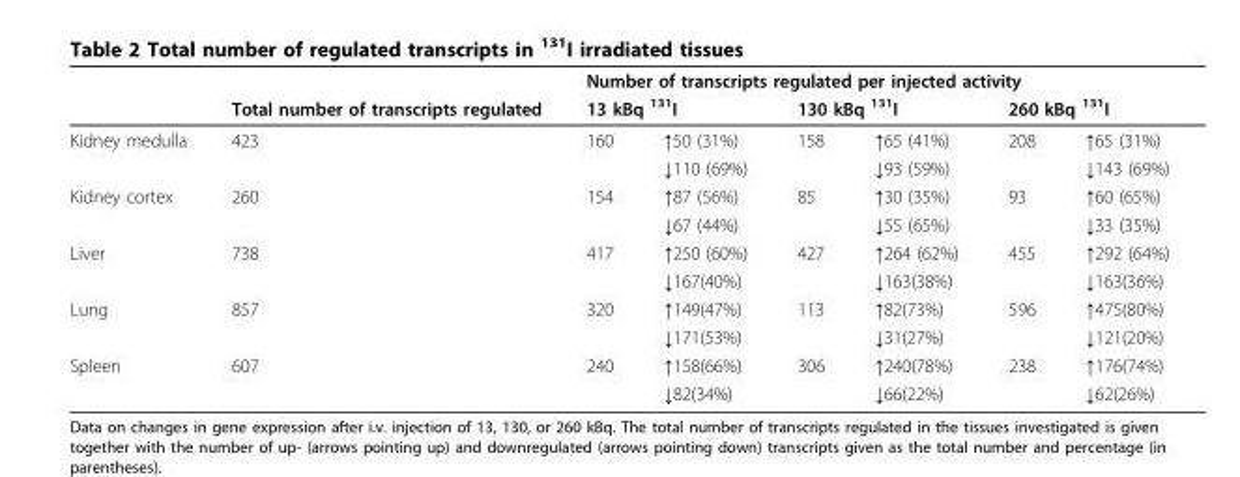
<table><thead><tr><td rowspan="3">Kidney medulla</td><td rowspan="3">Total number of transcripts regulated 423</td><td colspan="6">Number of transcripts regulated per injected activity</td></tr><tr><td colspan="2">13 kBq <sup>131</sup>I</td><td colspan="2">130 kBq <sup>131</sup>I</td><td colspan="2">260 kBq <sup>131</sup>I</td></tr><tr><td>160</td><td>↑50 (31%)</td><td>158</td><td>↑65 (41%)</td><td>208</td><td>↑65 (31%)</td></tr></thead><tbody><tr><td></td><td></td><td></td><td>↓110 (69%)</td><td></td><td>↓93 (59%)</td><td></td><td>↓143 (69%)</td></tr><tr><td rowspan="2">Kidney cortex</td><td>260</td><td>154</td><td>↑87 (56%)</td><td>85</td><td>↑30 (35%)</td><td>93</td><td>↑60 (65%)</td></tr><tr><td></td><td></td><td>↓67 (44%)</td><td></td><td>↓55 (65%)</td><td></td><td>↓33 (35%)</td></tr><tr><td rowspan="2">Liver</td><td>738</td><td>417</td><td>↑250 (60%)</td><td>427</td><td>↑264 (62%)</td><td>455</td><td>↑292 (64%)</td></tr><tr><td></td><td></td><td>↓167(40%)</td><td></td><td>↓163(38%)</td><td></td><td>↓163(36%)</td></tr><tr><td rowspan="2">Lung</td><td>857</td><td>320</td><td>↑149(47%)</td><td>113</td><td>↑82(73%)</td><td>596</td><td>↑475(80%)</td></tr><tr><td></td><td></td><td>↓171(53%)</td><td></td><td>↓31(27%)</td><td></td><td>↓121(20%)</td></tr><tr><td rowspan="2">Spleen</td><td>607</td><td>240</td><td>↑158(66%)</td><td>306</td><td>↑240(78%)</td><td>238</td><td>↑176(74%)</td></tr><tr><td></td><td></td><td>↓82(34%)</td><td></td><td>↓66(22%)</td><td></td><td>↓62(26%)</td></tr></tbody></table>